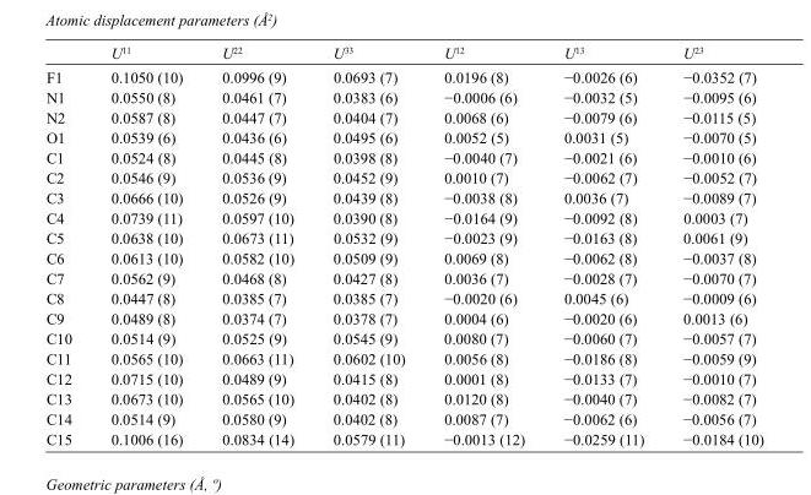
<table><thead><tr><td></td><td>U<sup>11</sup></td><td>U<sup>22</sup></td><td>U<sup>33</sup></td><td>U<sup>12</sup></td><td>U<sup>13</sup></td><td>U<sup>23</sup></td></tr></thead><tbody><tr><td>F1</td><td>0.1050 (10)</td><td>0.0996 (9)</td><td>0.0693 (7)</td><td>0.0196 (8)</td><td>−0.0026 (6)</td><td>−0.0352 (7)</td></tr><tr><td>N1</td><td>0.0550 (8)</td><td>0.0461 (7)</td><td>0.0383 (6)</td><td>−0.0006 (6)</td><td>−0.0032 (5)</td><td>−0.0095 (6)</td></tr><tr><td>N2</td><td>0.0587 (8)</td><td>0.0447 (7)</td><td>0.0404 (7)</td><td>0.0068 (6)</td><td>−0.0079 (6)</td><td>−0.0115 (5)</td></tr><tr><td>O1</td><td>0.0539 (6)</td><td>0.0436 (6)</td><td>0.0495 (6)</td><td>0.0052 (5)</td><td>0.0031 (5)</td><td>−0.0070 (5)</td></tr><tr><td>C1</td><td>0.0524 (8)</td><td>0.0445 (8)</td><td>0.0398 (8)</td><td>−0.0040 (7)</td><td>−0.0021 (6)</td><td>−0.0010 (6)</td></tr><tr><td>C2</td><td>0.0546 (9)</td><td>0.0536 (9)</td><td>0.0452 (9)</td><td>0.0010 (7)</td><td>−0.0062 (7)</td><td>−0.0052 (7)</td></tr><tr><td>C3</td><td>0.0666 (10)</td><td>0.0526 (9)</td><td>0.0439 (8)</td><td>−0.0038 (8)</td><td>0.0036 (7)</td><td>−0.0089 (7)</td></tr><tr><td>C4</td><td>0.0739 (11)</td><td>0.0597 (10)</td><td>0.0390 (8)</td><td>−0.0164 (9)</td><td>−0.0092 (8)</td><td>0.0003 (7)</td></tr><tr><td>C5</td><td>0.0638 (10)</td><td>0.0673 (11)</td><td>0.0532 (9)</td><td>−0.0023 (9)</td><td>−0.0163 (8)</td><td>0.0061 (9)</td></tr><tr><td>C6</td><td>0.0613 (10)</td><td>0.0582 (10)</td><td>0.0509 (9)</td><td>0.0069 (8)</td><td>−0.0062 (8)</td><td>−0.0037 (8)</td></tr><tr><td>C7</td><td>0.0562 (9)</td><td>0.0468 (8)</td><td>0.0427 (8)</td><td>0.0036 (7)</td><td>−0.0028 (7)</td><td>−0.0070 (7)</td></tr><tr><td>C8</td><td>0.0447 (8)</td><td>0.0385 (7)</td><td>0.0385 (7)</td><td>−0.0020 (6)</td><td>0.0045 (6)</td><td>−0.0009 (6)</td></tr><tr><td>C9</td><td>0.0489 (8)</td><td>0.0374 (7)</td><td>0.0378 (7)</td><td>0.0004 (6)</td><td>−0.0020 (6)</td><td>0.0013 (6)</td></tr><tr><td>C10</td><td>0.0514 (9)</td><td>0.0525 (9)</td><td>0.0545 (9)</td><td>0.0080 (7)</td><td>−0.0060 (7)</td><td>−0.0057 (7)</td></tr><tr><td>C11</td><td>0.0565 (10)</td><td>0.0663 (11)</td><td>0.0602 (10)</td><td>0.0056 (8)</td><td>−0.0186 (8)</td><td>−0.0059 (9)</td></tr><tr><td>C12</td><td>0.0715 (10)</td><td>0.0489 (9)</td><td>0.0415 (8)</td><td>0.0001 (8)</td><td>−0.0133 (7)</td><td>−0.0010 (7)</td></tr><tr><td>C13</td><td>0.0673 (10)</td><td>0.0565 (10)</td><td>0.0402 (8)</td><td>0.0120 (8)</td><td>−0.0040 (7)</td><td>−0.0082 (7)</td></tr><tr><td>C14</td><td>0.0514 (9)</td><td>0.0580 (9)</td><td>0.0402 (8)</td><td>0.0087 (7)</td><td>−0.0062 (6)</td><td>−0.0056 (7)</td></tr><tr><td>C15</td><td>0.1006 (16)</td><td>0.0834 (14)</td><td>0.0579 (11)</td><td>−0.0013 (12)</td><td>−0.0259 (11)</td><td>−0.0184 (10)</td></tr></tbody></table>